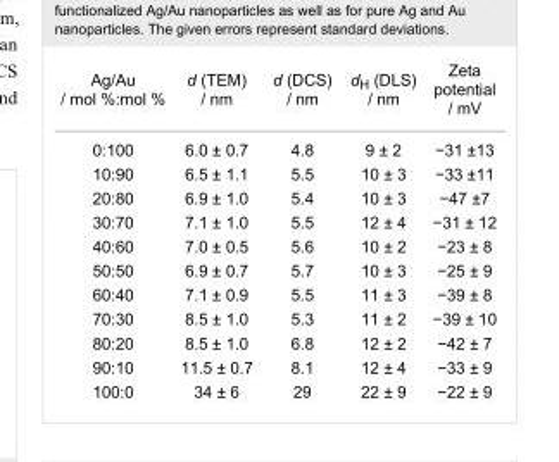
<table><tbody><tr><td>Ag/Au / mol %:mol %</td><td>d (TEM) / nm</td><td>d (DCS) / nm</td><td>d<sub>H</sub> (DLS) / nm</td><td>Zeta potential / mV</td></tr><tr><td>0:100</td><td>6.0 ± 0.7</td><td>4.8</td><td>9 ± 2</td><td>−31 ±13</td></tr><tr><td>10:90</td><td>6.5 ± 1.1</td><td>5.5</td><td>10 ± 3</td><td>−33 ±11</td></tr><tr><td>20:80</td><td>6.9 ± 1.0</td><td>5.4</td><td>10 ± 3</td><td>−47 ±7</td></tr><tr><td>30:70</td><td>7.1 ± 1.0</td><td>5.5</td><td>12 ± 4</td><td>−31 ± 12</td></tr><tr><td>40:60</td><td>7.0 ± 0.5</td><td>5.6</td><td>10 ± 2</td><td>−23 ± 8</td></tr><tr><td>50:50</td><td>6.9 ± 0.7</td><td>5.7</td><td>10 ± 3</td><td>−25 ± 9</td></tr><tr><td>60:40</td><td>7.1 ± 0.9</td><td>5.5</td><td>11 ± 3</td><td>−39 ± 8</td></tr><tr><td>70:30</td><td>8.5 ± 1.0</td><td>5.3</td><td>11 ± 2</td><td>−39 ± 10</td></tr><tr><td>80:20</td><td>8.5 ± 1.0</td><td>6.8</td><td>12 ± 2</td><td>−42 ± 7</td></tr><tr><td>90:10</td><td>11.5 ± 0.7</td><td>8.1</td><td>12 ± 4</td><td>−33 ± 9</td></tr><tr><td>100:0</td><td>34 ± 6</td><td>29</td><td>22 ± 9</td><td>−22 ± 9</td></tr></tbody></table>